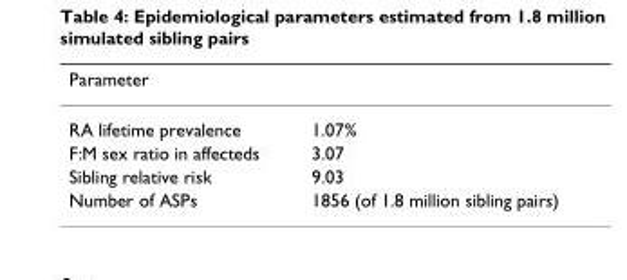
<table><thead><tr><td>Parameter</td><td></td></tr></thead><tbody><tr><td>RA lifetime prevalence</td><td>1.07%</td></tr><tr><td>F:M sex ratio in affecteds</td><td>3.07</td></tr><tr><td>Sibling relative risk</td><td>9.03</td></tr><tr><td>Number of ASPs</td><td>1856 (of 1.8 million sibling pairs)</td></tr></tbody></table>